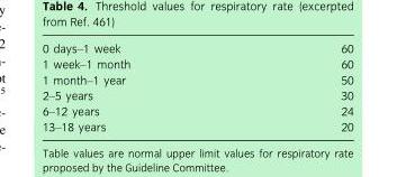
<table><tbody><tr><td>0 days–1 week</td><td>60</td></tr><tr><td>1 week–1 month</td><td>60</td></tr><tr><td>1 month–1 year</td><td>50</td></tr><tr><td>2–5 years</td><td>30</td></tr><tr><td>6–12 years</td><td>24</td></tr><tr><td>13–18 years</td><td>20</td></tr></tbody></table>